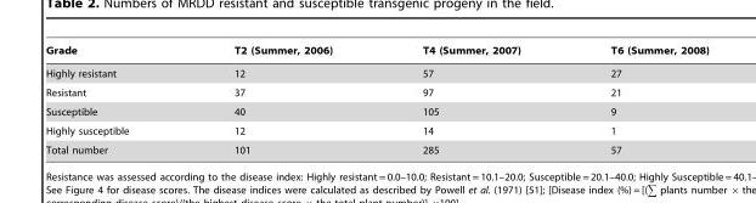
<table><thead><tr><td>Grade</td><td>T2 (Summer, 2006)</td><td>T4 (Summer, 2007)</td><td>T6 (Summer, 2008)</td></tr></thead><tbody><tr><td>Highly resistant</td><td>12</td><td>57</td><td>27</td></tr><tr><td>Resistant</td><td>37</td><td>97</td><td>21</td></tr><tr><td>Susceptible</td><td>40</td><td>105</td><td>9</td></tr><tr><td>Highly susceptible</td><td>12</td><td>14</td><td>1</td></tr><tr><td>Total number</td><td>101</td><td>285</td><td>57</td></tr></tbody></table>